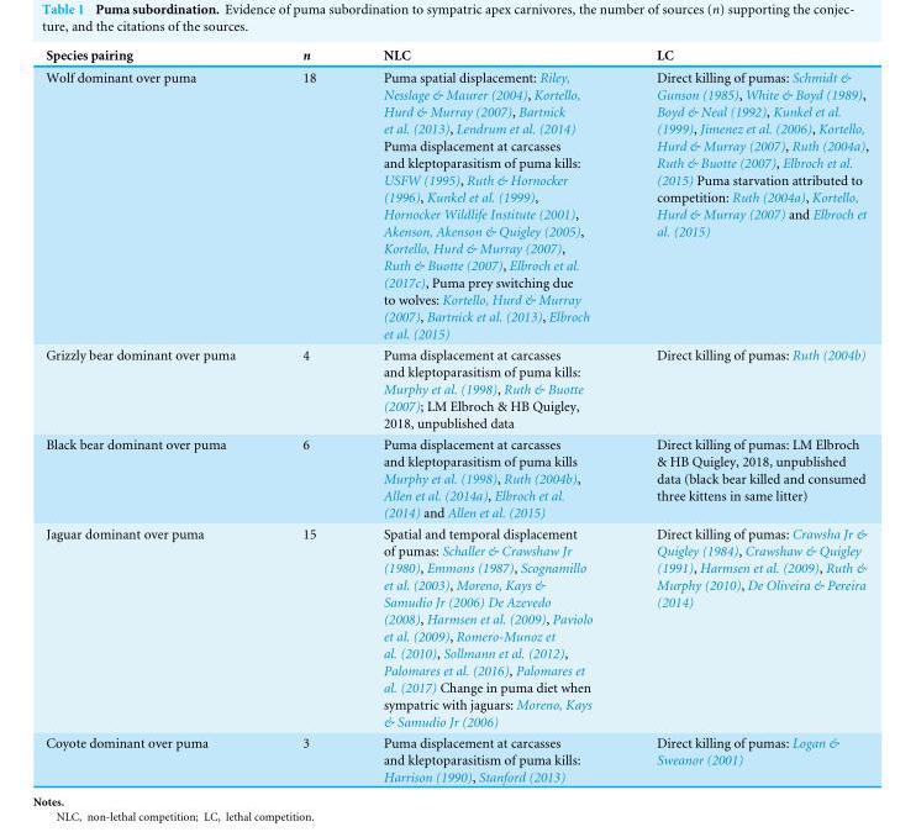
<table><thead><tr><td>Species pairing</td><td>n</td><td>NLC</td><td>LC</td></tr></thead><tbody><tr><td>Wolf dominant over puma</td><td>18</td><td>Puma spatial displacement: Riley, Nesslage &amp; Maurer (2004), Kortello, Hurd &amp; Murray (2007), Bartnick et al. (2013), Lendrum et al. (2014) Puma displacement at carcasses and kleptoparasitism of puma kills: USFW (1995), Ruth &amp; Hornocker (1996), Kunkel et al. (1999), Hornocker Wildlife Institute (2001), Akenson, Akenson &amp; Quigley (2005), Kortello, Hurd &amp; Murray (2007), Ruth &amp; Buotte (2007), Elbroch et al. (2017c), Puma prey switching due to wolves: Kortello, Hurd &amp; Murray (2007), Bartnick et al. (2013), Elbroch et al. (2015)</td><td>Direct killing of pumas: Schmidt &amp; Gunson (1985), White &amp; Boyd (1989), Boyd &amp; Neal (1992), Kunkel et al. (1999), Jimenez et al. (2006), Kortello, Hurd &amp; Murray (2007), Ruth (2004a), Ruth &amp; Buotte (2007), Elbroch et al. (2015) Puma starvation attributed to competition: Ruth (2004a), Kortello, Hurd &amp; Murray (2007) and Elbroch et al. (2015)</td></tr><tr><td>Grizzly bear dominant over puma</td><td>4</td><td>Puma displacement at carcasses and kleptoparasitism of puma kills: Murphy et al. (1998), Ruth &amp; Buotte (2007); LM Elbroch &amp; HB Quigley, 2018, unpublished data</td><td>Direct killing of pumas: Ruth (2004b)</td></tr><tr><td>Black bear dominant over puma</td><td>6</td><td>Puma displacement at carcasses and kleptoparasitism of puma kills Murphy et al. (1998), Ruth (2004b), Allen et al. (2014a), Elbroch et al. (2014) and Allen et al. (2015)</td><td>Direct killing of pumas: LM Elbroch &amp; HB Quigley, 2018, unpublished data (black bear killed and consumed three kittens in same litter)</td></tr><tr><td>Jaguar dominant over puma</td><td>15</td><td>Spatial and temporal displacement of pumas: Schaller &amp; Crawshaw Jr (1980), Emmons (1987), Scognamillo et al. (2003), Moreno, Kays &amp; Samudio Jr (2006) De Azevedo (2008), Harmsen et al. (2009), Paviolo et al. (2009), Romero-Munoz et al. (2010), Sollmann et al. (2012), Palomares et al. (2016), Palomares et al. (2017) Change in puma diet when sympatric with jaguars: Moreno, Kays &amp; Samudio Jr (2006)</td><td>Direct killing of pumas: Crawsha Jr &amp; Quigley (1984), Crawshaw &amp; Quigley (1991), Harmsen et al. (2009), Ruth &amp; Murphy (2010), De Oliveira &amp; Pereira (2014)</td></tr><tr><td>Coyote dominant over puma</td><td>3</td><td>Puma displacement at carcasses and kleptoparasitism of puma kills: Harrison (1990), Stanford (2013)</td><td>Direct killing of pumas: Logan &amp; Sweanor (2001)</td></tr></tbody></table>